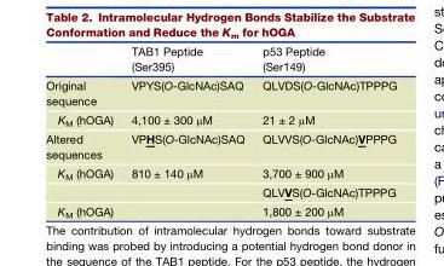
<table><thead><tr><td></td><td>TAB1 Peptide (Ser395)</td><td>p53 Peptide (Ser149)</td></tr></thead><tbody><tr><td>Original sequence</td><td>VPYS(O-GlcNAc)SAQ</td><td>QLVDS(O-GlcNAc)TPPPG</td></tr><tr><td>K<sub>M</sub> (hOGA)</td><td>4,100 ± 300 μM</td><td>21 ± 2 μM</td></tr><tr><td>Altered sequences</td><td>VPHS(O-GlcNAc)SAQ</td><td>QLVVS(O-GlcNAc)VPPPG</td></tr><tr><td rowspan="2">K<sub>M</sub> (hOGA)</td><td>810 ± 140 μM</td><td>3,700 ± 900 μM</td></tr><tr><td></td><td>QLVVS(O-GlcNAc)TPPPG</td></tr><tr><td>K<sub>M</sub> (hOGA)</td><td></td><td>1,800 ± 200 μM</td></tr></tbody></table>